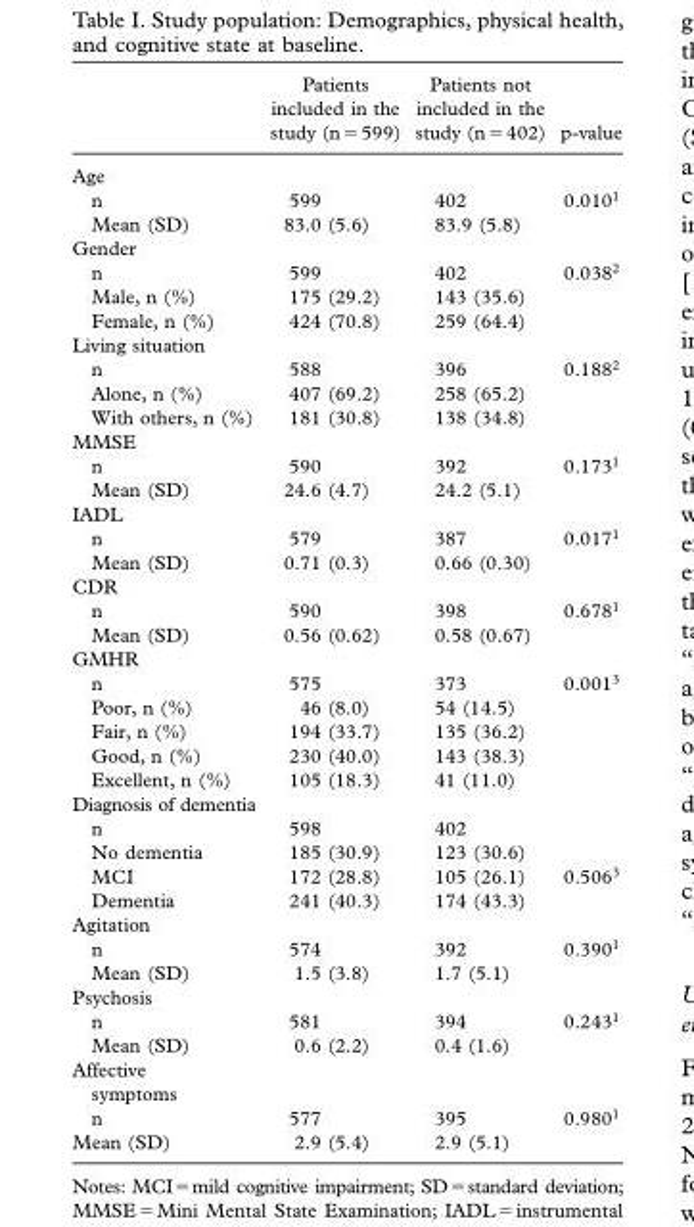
<table><thead><tr><td></td><td>Patients included in the study (n = 599)</td><td>Patients not included in the study (n = 402)</td><td>p-value</td></tr></thead><tbody><tr><td colspan="4">Age</td></tr><tr><td>n</td><td>599</td><td>402</td><td>0.010 <sup>1</sup></td></tr><tr><td>Mean (SD)</td><td>83.0 (5.6)</td><td>83.9 (5.8)</td><td></td></tr><tr><td colspan="4">Gender</td></tr><tr><td>n</td><td>599</td><td>402</td><td>0.038 <sup>2</sup></td></tr><tr><td>Male, n (%)</td><td>175 (29.2)</td><td>143 (35.6)</td><td></td></tr><tr><td>Female, n (%)</td><td>424 (70.8)</td><td>259 (64.4)</td><td></td></tr><tr><td colspan="4">Living situation</td></tr><tr><td>n</td><td>588</td><td>396</td><td>0.188 <sup>2</sup></td></tr><tr><td>Alone, n (%)</td><td>407 (69.2)</td><td>258 (65.2)</td><td></td></tr><tr><td>With others, n (%)</td><td>181 (30.8)</td><td>138 (34.8)</td><td></td></tr><tr><td colspan="4">MMSE</td></tr><tr><td>n</td><td>590</td><td>392</td><td>0.173 <sup>1</sup></td></tr><tr><td>Mean (SD)</td><td>24.6 (4.7)</td><td>24.2 (5.1)</td><td></td></tr><tr><td colspan="4">IADL</td></tr><tr><td>n</td><td>579</td><td>387</td><td>0.017 <sup>1</sup></td></tr><tr><td>Mean (SD)</td><td>0.71 (0.3)</td><td>0.66 (0.30)</td><td></td></tr><tr><td colspan="4">CDR</td></tr><tr><td>n</td><td>590</td><td>398</td><td>0.678 <sup>1</sup></td></tr><tr><td>Mean (SD)</td><td>0.56 (0.62)</td><td>0.58 (0.67)</td><td></td></tr><tr><td colspan="4">GMHR</td></tr><tr><td>n</td><td>575</td><td>373</td><td>0.001 <sup>3</sup></td></tr><tr><td>Poor, n (%)</td><td>46 (8.0)</td><td>54 (14.5)</td><td></td></tr><tr><td>Fair, n (%)</td><td>194 (33.7)</td><td>135 (36.2)</td><td></td></tr><tr><td>Good, n (%)</td><td>230 (40.0)</td><td>143 (38.3)</td><td></td></tr><tr><td>Excellent, n (%)</td><td>105 (18.3)</td><td>41 (11.0)</td><td></td></tr><tr><td colspan="4">Diagnosis of dementia</td></tr><tr><td>n</td><td>598</td><td>402</td><td></td></tr><tr><td>No dementia</td><td>185 (30.9)</td><td>123 (30.6)</td><td></td></tr><tr><td>MCI</td><td>172 (28.8)</td><td>105 (26.1)</td><td>0.506 <sup>3</sup></td></tr><tr><td>Dementia</td><td>241 (40.3)</td><td>174 (43.3)</td><td></td></tr><tr><td colspan="4">Agitation</td></tr><tr><td>n</td><td>574</td><td>392</td><td>0.390 <sup>1</sup></td></tr><tr><td>Mean (SD)</td><td>1.5 (3.8)</td><td>1.7 (5.1)</td><td></td></tr><tr><td colspan="4">Psychosis</td></tr><tr><td>n</td><td>581</td><td>394</td><td>0.243 <sup>1</sup></td></tr><tr><td>Mean (SD)</td><td>0.6 (2.2)</td><td>0.4 (1.6)</td><td></td></tr><tr><td colspan="4">Affective</td></tr><tr><td colspan="4">symptoms</td></tr><tr><td>n</td><td>577</td><td>395</td><td>0.980 <sup>1</sup></td></tr><tr><td>Mean (SD)</td><td>2.9 (5.4)</td><td>2.9 (5.1)</td><td></td></tr></tbody></table>